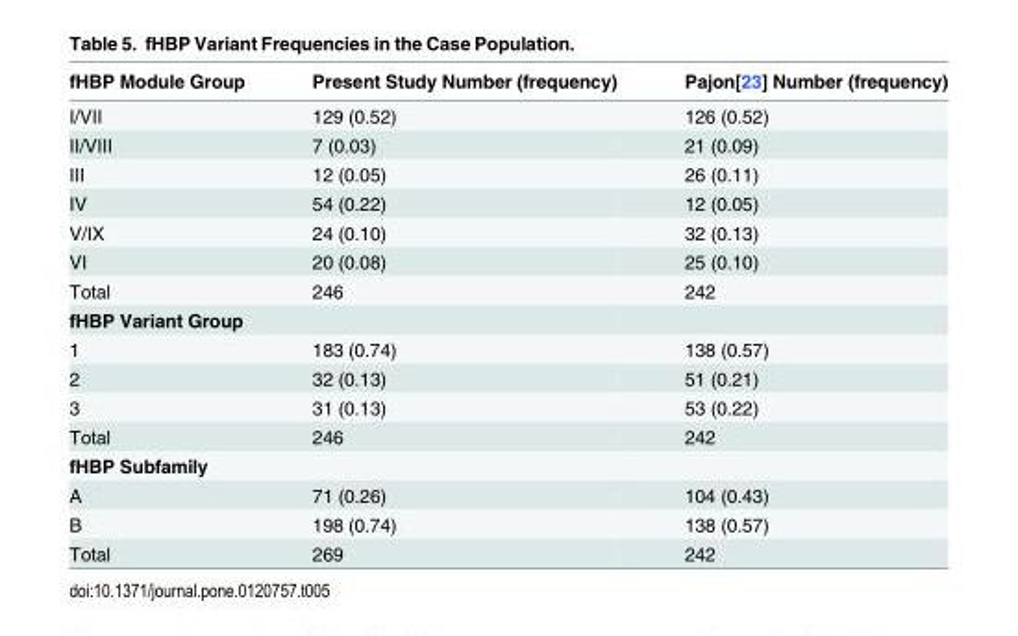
<table><thead><tr><td>fHBP Module Group</td><td>Present Study Number (frequency)</td><td>Pajon[23] Number (frequency)</td></tr></thead><tbody><tr><td>I/VII</td><td>129 (0.52)</td><td>126 (0.52)</td></tr><tr><td>II/VIII</td><td>7 (0.03)</td><td>21 (0.09)</td></tr><tr><td>III</td><td>12 (0.05)</td><td>26 (0.11)</td></tr><tr><td>IV</td><td>54 (0.22)</td><td>12 (0.05)</td></tr><tr><td>V/IX</td><td>24 (0.10)</td><td>32 (0.13)</td></tr><tr><td>VI</td><td>20 (0.08)</td><td>25 (0.10)</td></tr><tr><td>Total</td><td>246</td><td>242</td></tr><tr><td colspan="3">fHBP Variant Group</td></tr><tr><td>1</td><td>183 (0.74)</td><td>138 (0.57)</td></tr><tr><td>2</td><td>32 (0.13)</td><td>51 (0.21)</td></tr><tr><td>3</td><td>31 (0.13)</td><td>53 (0.22)</td></tr><tr><td>Total</td><td>246</td><td>242</td></tr><tr><td colspan="3">fHBP Subfamily</td></tr><tr><td>A</td><td>71 (0.26)</td><td>104 (0.43)</td></tr><tr><td>B</td><td>198 (0.74)</td><td>138 (0.57)</td></tr><tr><td>Total</td><td>269</td><td>242</td></tr></tbody></table>